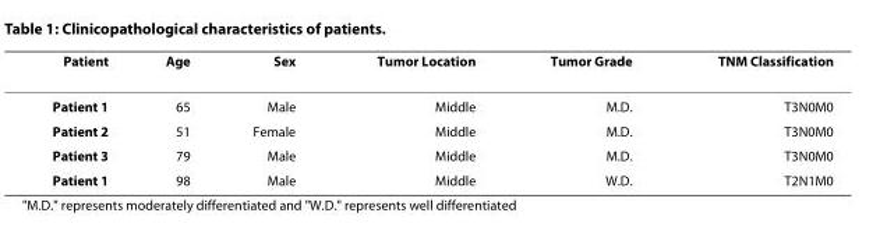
<table><thead><tr><td>Patient</td><td>Age</td><td>Sex</td><td>Tumor Location</td><td>Tumor Grade</td><td>TNM Classification</td></tr></thead><tbody><tr><td>Patient 1</td><td>65</td><td>Male</td><td>Middle</td><td>M.D.</td><td>T3N0M0</td></tr><tr><td>Patient 2</td><td>51</td><td>Female</td><td>Middle</td><td>M.D.</td><td>T3N0M0</td></tr><tr><td>Patient 3</td><td>79</td><td>Male</td><td>Middle</td><td>M.D.</td><td>T3N0M0</td></tr><tr><td>Patient 1</td><td>98</td><td>Male</td><td>Middle</td><td>W.D.</td><td>T2N1M0</td></tr></tbody></table>